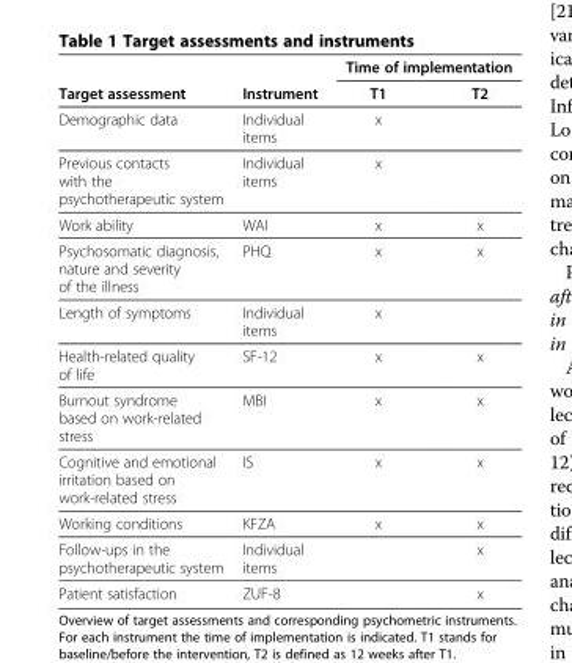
<table><thead><tr><td rowspan="2">Target assessment</td><td rowspan="2">Instrument</td><td colspan="2">Time of implementation</td></tr><tr><td>T1</td><td>T2</td></tr></thead><tbody><tr><td>Demographic data</td><td>Individual items</td><td>x</td><td></td></tr><tr><td>Previous contacts with the psychotherapeutic system</td><td>Individual items</td><td>x</td><td></td></tr><tr><td>Work ability</td><td>WAI</td><td>x</td><td>x</td></tr><tr><td>Psychosomatic diagnosis, nature and severity of the illness</td><td>PHQ</td><td>x</td><td>x</td></tr><tr><td>Length of symptoms</td><td>Individual items</td><td>x</td><td></td></tr><tr><td>Health-related quality of life</td><td>SF-12</td><td>x</td><td>x</td></tr><tr><td>Burnout syndrome based on work-related stress</td><td>MBI</td><td>x</td><td>x</td></tr><tr><td>Cognitive and emotional irritation based on work-related stress</td><td>IS</td><td>x</td><td>x</td></tr><tr><td>Working conditions</td><td>KFZA</td><td>x</td><td>x</td></tr><tr><td>Follow-ups in the psychotherapeutic system</td><td>Individual items</td><td></td><td>x</td></tr><tr><td>Patient satisfaction</td><td>ZUF-8</td><td></td><td>x</td></tr></tbody></table>